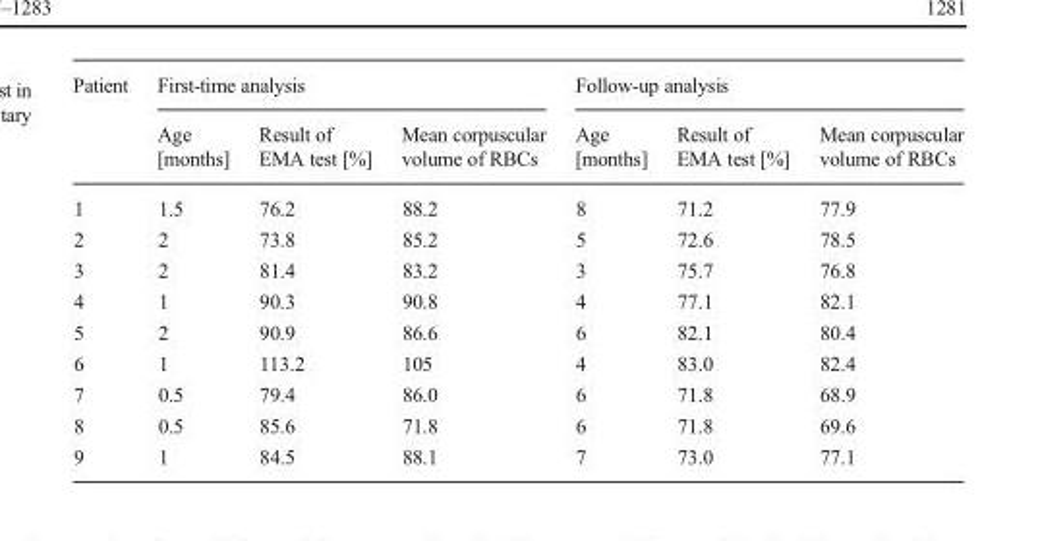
<table><thead><tr><td rowspan="2">Patient</td><td colspan="3">First-time analysis</td><td colspan="3">Follow-up analysis</td></tr><tr><td>Age [months]</td><td>Result of EMA test [%]</td><td>Mean corpuscular volume of RBCs</td><td>Age [months]</td><td>Result of EMA test [%]</td><td>Mean corpuscular volume of RBCs</td></tr></thead><tbody><tr><td>1</td><td>1.5</td><td>76.2</td><td>88.2</td><td>8</td><td>71.2</td><td>77.9</td></tr><tr><td>2</td><td>2</td><td>73.8</td><td>85.2</td><td>5</td><td>72.6</td><td>78.5</td></tr><tr><td>3</td><td>2</td><td>81.4</td><td>83.2</td><td>3</td><td>75.7</td><td>76.8</td></tr><tr><td>4</td><td>1</td><td>90.3</td><td>90.8</td><td>4</td><td>77.1</td><td>82.1</td></tr><tr><td>5</td><td>2</td><td>90.9</td><td>86.6</td><td>6</td><td>82.1</td><td>80.4</td></tr><tr><td>6</td><td>1</td><td>113.2</td><td>105</td><td>4</td><td>83.0</td><td>82.4</td></tr><tr><td>7</td><td>0.5</td><td>79.4</td><td>86.0</td><td>6</td><td>71.8</td><td>68.9</td></tr><tr><td>8</td><td>0.5</td><td>85.6</td><td>71.8</td><td>6</td><td>71.8</td><td>69.6</td></tr><tr><td>9</td><td>1</td><td>84.5</td><td>88.1</td><td>7</td><td>73.0</td><td>77.1</td></tr></tbody></table>